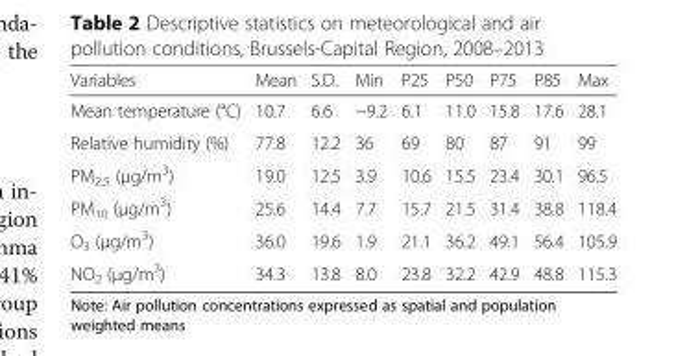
<table><thead><tr><td>Variables</td><td>Mean</td><td>S.D.</td><td>Min</td><td>P25</td><td>P50</td><td>P75</td><td>P85</td><td>Max</td></tr></thead><tbody><tr><td>Mean temperature (°C)</td><td>10.7</td><td>6.6</td><td>−9.2</td><td>6.1</td><td>11.0</td><td>15.8</td><td>17.6</td><td>28.1</td></tr><tr><td>Relative humidity (%)</td><td>77.8</td><td>12.2</td><td>36</td><td>69</td><td>80</td><td>87</td><td>91</td><td>99</td></tr><tr><td>PM<sub>2.5</sub> (μg/m<sup>3</sup>)</td><td>19.0</td><td>12.5</td><td>3.9</td><td>10.6</td><td>15.5</td><td>23.4</td><td>30.1</td><td>96.5</td></tr><tr><td>PM<sub>10</sub> (μg/m<sup>3</sup>)</td><td>25.6</td><td>14.4</td><td>7.7</td><td>15.7</td><td>21.5</td><td>31.4</td><td>38.8</td><td>118.4</td></tr><tr><td>O<sub>3</sub> (μg/m<sup>3</sup>)</td><td>36.0</td><td>19.6</td><td>1.9</td><td>21.1</td><td>36.2</td><td>49.1</td><td>56.4</td><td>105.9</td></tr><tr><td>NO<sub>2</sub> (μg/m<sup>3</sup>)</td><td>34.3</td><td>13.8</td><td>8.0</td><td>23.8</td><td>32.2</td><td>42.9</td><td>48.8</td><td>115.3</td></tr></tbody></table>